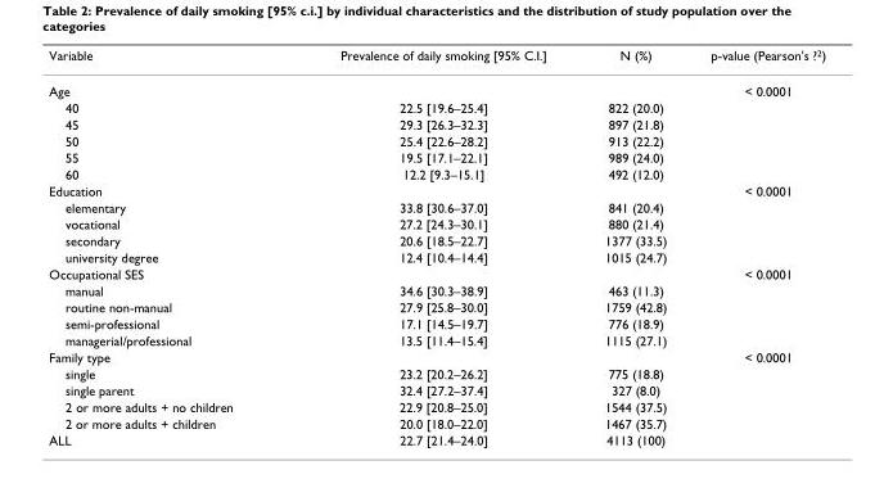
<table><thead><tr><td>Variable</td><td>Prevalence of daily smoking [95% C.I.]</td><td>N (%)</td><td>p-value (Pearson&#x27;s ?2)</td></tr></thead><tbody><tr><td>Age</td><td></td><td></td><td>&lt; 0.0001</td></tr><tr><td>40</td><td>22.5 [19.6–25.4]</td><td>822 (20.0)</td><td></td></tr><tr><td>45</td><td>29.3 [26.3–32.3]</td><td>897 (21.8)</td><td></td></tr><tr><td>50</td><td>25.4 [22.6–28.2]</td><td>913 (22.2)</td><td></td></tr><tr><td>55</td><td>19.5 [17.1–22.1]</td><td>989 (24.0)</td><td></td></tr><tr><td>60</td><td>12.2 [9.3–15.1]</td><td>492 (12.0)</td><td></td></tr><tr><td>Education</td><td></td><td></td><td>&lt; 0.0001</td></tr><tr><td>elementary</td><td>33.8 [30.6–37.0]</td><td>841 (20.4)</td><td></td></tr><tr><td>vocational</td><td>27.2 [24.3–30.1]</td><td>880 (21.4)</td><td></td></tr><tr><td>secondary</td><td>20.6 [18.5–22.7]</td><td>1377 (33.5)</td><td></td></tr><tr><td>university degree</td><td>12.4 [10.4–14.4]</td><td>1015 (24.7)</td><td></td></tr><tr><td>Occupational SES</td><td></td><td></td><td>&lt; 0.0001</td></tr><tr><td>manual</td><td>34.6 [30.3–38.9]</td><td>463 (11.3)</td><td></td></tr><tr><td>routine non-manual</td><td>27.9 [25.8–30.0]</td><td>1759 (42.8)</td><td></td></tr><tr><td>semi-professional</td><td>17.1 [14.5–19.7]</td><td>776 (18.9)</td><td></td></tr><tr><td>managerial/professional</td><td>13.5 [11.4–15.4]</td><td>1115 (27.1)</td><td></td></tr><tr><td>Family type</td><td></td><td></td><td>&lt; 0.0001</td></tr><tr><td>single</td><td>23.2 [20.2–26.2]</td><td>775 (18.8)</td><td></td></tr><tr><td>single parent</td><td>32.4 [27.2–37.4]</td><td>327 (8.0)</td><td></td></tr><tr><td>2 or more adults + no children</td><td>22.9 [20.8–25.0]</td><td>1544 (37.5)</td><td></td></tr><tr><td>2 or more adults + children</td><td>20.0 [18.0–22.0]</td><td>1467 (35.7)</td><td></td></tr><tr><td>ALL</td><td>22.7 [21.4–24.0]</td><td>4113 (100)</td><td></td></tr></tbody></table>